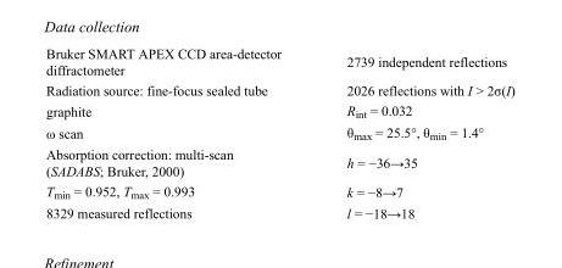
<table><tbody><tr><td>Bruker SMART APEX CCD area-detector diffractometer</td><td>2739 independent reflections</td></tr><tr><td>Radiation source: fine-focus sealed tube</td><td>2026 reflections with I &gt; 2σ(I)</td></tr><tr><td>graphite</td><td>R<sub>int</sub> = 0.032</td></tr><tr><td>ω scan</td><td>θ<sub>max</sub> = 25.5°, θ<sub>min</sub> = 1.4°</td></tr><tr><td>Absorption correction: multi-scan (SADABS; Bruker, 2000)</td><td>h = −36→35</td></tr><tr><td>T<sub>min</sub> = 0.952, T<sub>max</sub> = 0.993</td><td>k = −8→7</td></tr><tr><td>8329 measured reflections</td><td>l = −18→18</td></tr></tbody></table>